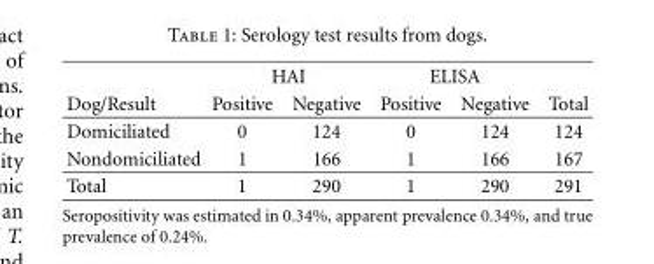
<table><thead><tr><td rowspan="2">Dog/Result</td><td colspan="2">HAI</td><td colspan="2">ELISA</td><td rowspan="2">Total</td></tr><tr><td>Positive</td><td>Negative</td><td>Positive</td><td>Negative</td></tr></thead><tbody><tr><td>Domiciliated</td><td>0</td><td>124</td><td>0</td><td>124</td><td>124</td></tr><tr><td>Nondomiciliated</td><td>1</td><td>166</td><td>1</td><td>166</td><td>167</td></tr><tr><td>Total</td><td>1</td><td>290</td><td>1</td><td>290</td><td>291</td></tr></tbody></table>